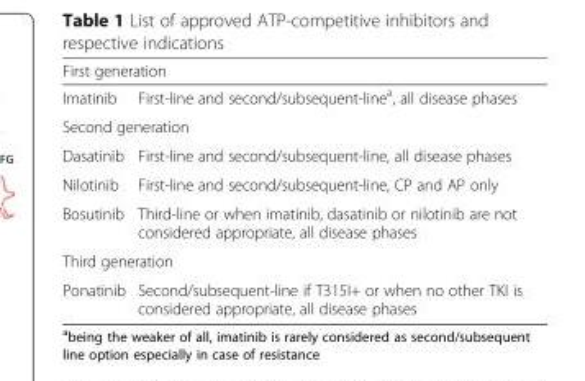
<table><thead><tr><td colspan="2">First generation</td></tr><tr><td>Imatinib</td><td>First-line and second/subsequent-line<sup>a</sup>, all disease phases</td></tr></thead><tbody><tr><td colspan="2">Second generation</td></tr><tr><td>Dasatinib</td><td>First-line and second/subsequent-line, all disease phases</td></tr><tr><td>Nilotinib</td><td>First-line and second/subsequent-line, CP and AP only</td></tr><tr><td>Bosutinib</td><td>Third-line or when imatinib, dasatinib or nilotinib are not considered appropriate, all disease phases</td></tr><tr><td colspan="2">Third generation</td></tr><tr><td>Ponatinib</td><td>Second/subsequent-line if T315I+ or when no other TKI is considered appropriate, all disease phases</td></tr></tbody></table>